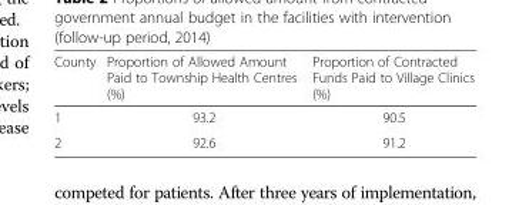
<table><thead><tr><td>County</td><td>Proportion of Allowed Amount Paid to Township Health Centres (%)</td><td>Proportion of Contracted Funds Paid to Village Clinics (%)</td></tr></thead><tbody><tr><td>1</td><td>93.2</td><td>90.5</td></tr><tr><td>2</td><td>92.6</td><td>91.2</td></tr></tbody></table>